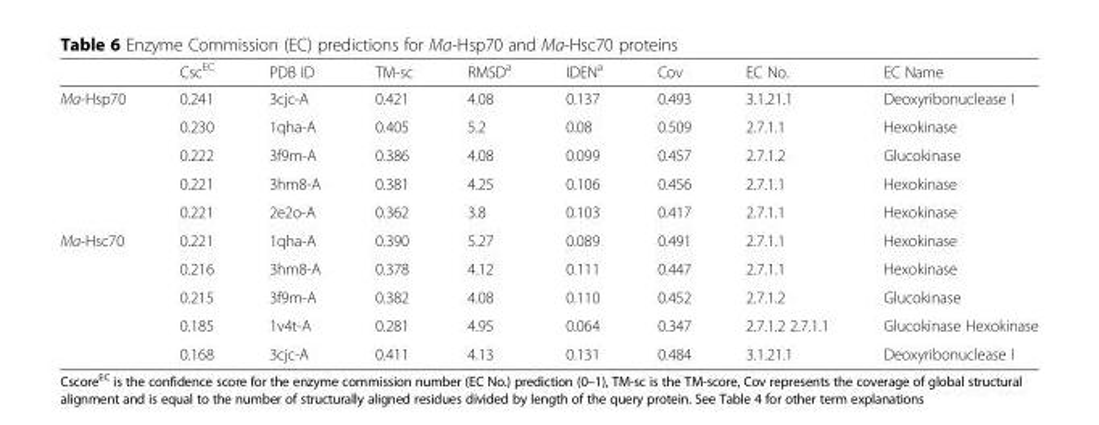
<table><thead><tr><td></td><td>Csc<sup>EC</sup></td><td>PDB ID</td><td>TM-sc</td><td>RMSD<sup>a</sup></td><td>IDEN<sup>a</sup></td><td>Cov</td><td>EC No.</td><td>EC Name</td></tr></thead><tbody><tr><td rowspan="5">Ma-Hsp70</td><td>0.241</td><td>3cjc-A</td><td>0.421</td><td>4.08</td><td>0.137</td><td>0.493</td><td>3.1.21.1</td><td>Deoxyribonuclease I</td></tr><tr><td>0.230</td><td>1qha-A</td><td>0.405</td><td>5.2</td><td>0.08</td><td>0.509</td><td>2.7.1.1</td><td>Hexokinase</td></tr><tr><td>0.222</td><td>3f9m-A</td><td>0.386</td><td>4.08</td><td>0.099</td><td>0.457</td><td>2.7.1.2</td><td>Glucokinase</td></tr><tr><td>0.221</td><td>3hm8-A</td><td>0.381</td><td>4.25</td><td>0.106</td><td>0.456</td><td>2.7.1.1</td><td>Hexokinase</td></tr><tr><td>0.221</td><td>2e2o-A</td><td>0.362</td><td>3.8</td><td>0.103</td><td>0.417</td><td>2.7.1.1</td><td>Hexokinase</td></tr><tr><td rowspan="5">Ma-Hsc70</td><td>0.221</td><td>1qha-A</td><td>0.390</td><td>5.27</td><td>0.089</td><td>0.491</td><td>2.7.1.1</td><td>Hexokinase</td></tr><tr><td>0.216</td><td>3hm8-A</td><td>0.378</td><td>4.12</td><td>0.111</td><td>0.447</td><td>2.7.1.1</td><td>Hexokinase</td></tr><tr><td>0.215</td><td>3f9m-A</td><td>0.382</td><td>4.08</td><td>0.110</td><td>0.452</td><td>2.7.1.2</td><td>Glucokinase</td></tr><tr><td>0.185</td><td>1v4t-A</td><td>0.281</td><td>4.95</td><td>0.064</td><td>0.347</td><td>2.7.1.2 2.7.1.1</td><td>Glucokinase Hexokinase</td></tr><tr><td>0.168</td><td>3cjc-A</td><td>0.411</td><td>4.13</td><td>0.131</td><td>0.484</td><td>3.1.21.1</td><td>Deoxyribonuclease I</td></tr></tbody></table>